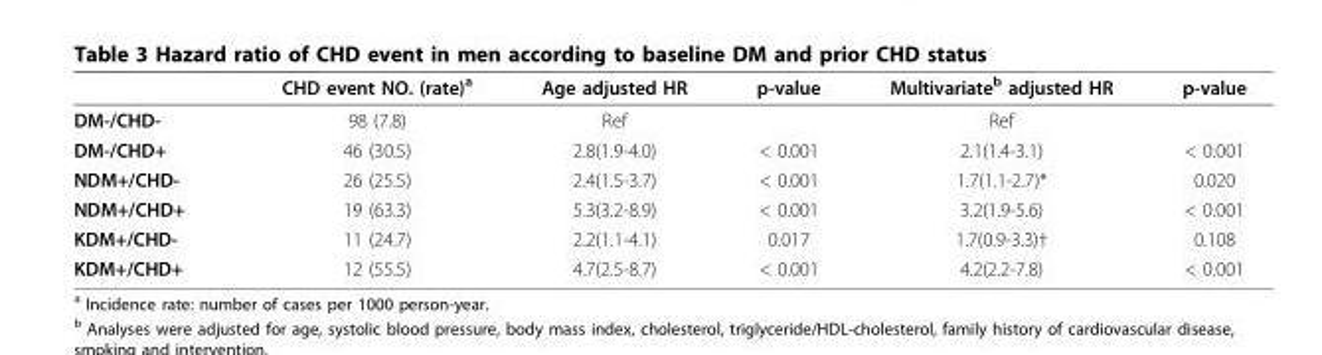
<table><thead><tr><td></td><td>CHD event NO. (rate)<sup>a</sup></td><td>Age adjusted HR</td><td>p-value</td><td>Multivariate<sup>b</sup> adjusted HR</td><td>p-value</td></tr></thead><tbody><tr><td>DM-/CHD-</td><td>98 (7.8)</td><td>Ref</td><td></td><td>Ref</td><td></td></tr><tr><td>DM-/CHD+</td><td>46 (30.5)</td><td>2.8(1.9-4.0)</td><td>&lt; 0.001</td><td>2.1(1.4-3.1)</td><td>&lt; 0.001</td></tr><tr><td>NDM+/CHD-</td><td>26 (25.5)</td><td>2.4(1.5-3.7)</td><td>&lt; 0.001</td><td>1.7(1.1-2.7)*</td><td>0.020</td></tr><tr><td>NDM+/CHD+</td><td>19 (63.3)</td><td>5.3(3.2-8.9)</td><td>&lt; 0.001</td><td>3.2(1.9-5.6)</td><td>&lt; 0.001</td></tr><tr><td>KDM+/CHD-</td><td>11 (24.7)</td><td>2.2(1.1-4.1)</td><td>0.017</td><td>1.7(0.9-3.3)†</td><td>0.108</td></tr><tr><td>KDM+/CHD+</td><td>12 (55.5)</td><td>4.7(2.5-8.7)</td><td>&lt; 0.001</td><td>4.2(2.2-7.8)</td><td>&lt; 0.001</td></tr></tbody></table>